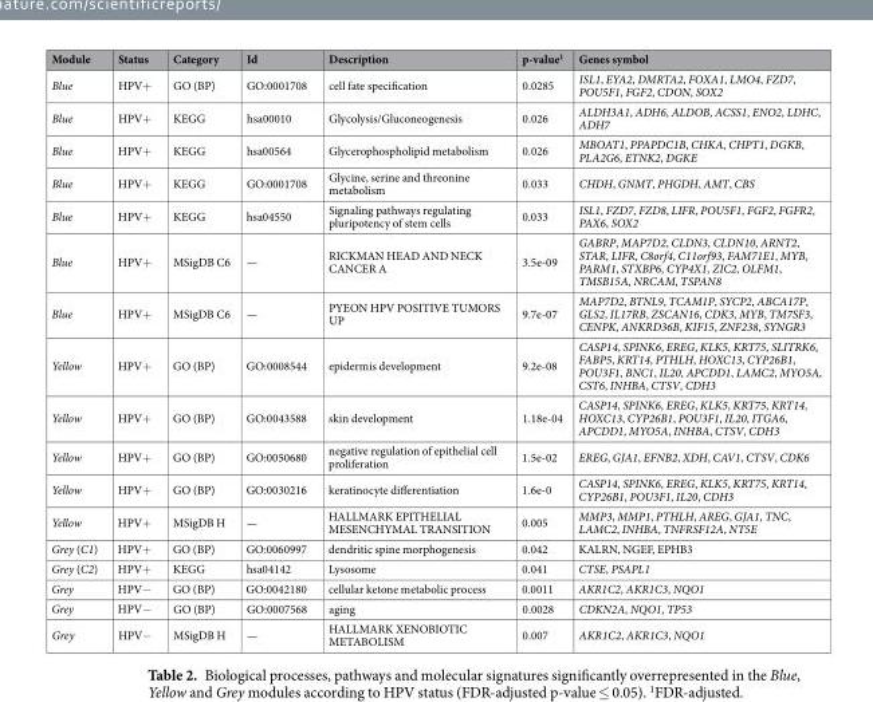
<table><thead><tr><td>Module</td><td>Status</td><td>Category</td><td>Id</td><td>Description</td><td>p-value<sup>1</sup></td><td>Genes symbol</td></tr></thead><tbody><tr><td>Blue</td><td>HPV+</td><td>GO (BP)</td><td>GO:0001708</td><td>cell fate specification</td><td>0.0285</td><td>ISL1, EYA2, DMRTA2, FOXA1, LMO4, FZD7, POU5F1, FGF2, CDON, SOX2</td></tr><tr><td>Blue</td><td>HPV+</td><td>KEGG</td><td>hsa00010</td><td>Glycolysis/Gluconeogenesis</td><td>0.026</td><td>ALDH3A1, ADH6, ALDOB, ACSS1, ENO2, LDHC, ADH7</td></tr><tr><td>Blue</td><td>HPV+</td><td>KEGG</td><td>hsa00564</td><td>Glycerophospholipid metabolism</td><td>0.026</td><td>MBOAT1, PPAPDC1B, CHKA, CHPT1, DGKB, PLA2G6, ETNK2, DGKE</td></tr><tr><td>Blue</td><td>HPV+</td><td>KEGG</td><td>GO:0001708</td><td>Glycine, serine and threonine metabolism</td><td>0.033</td><td>CHDH, GNMT, PHGDH, AMT, CBS</td></tr><tr><td>Blue</td><td>HPV+</td><td>KEGG</td><td>hsa04550</td><td>Signaling pathways regulating pluripotency of stem cells</td><td>0.033</td><td>ISL1, FZD7, FZD8, LIFR, POU5F1, FGF2, FGFR2, PAX6, SOX2</td></tr><tr><td>Blue</td><td>HPV+</td><td>MSigDB C6</td><td>—</td><td>RICKMAN HEAD AND NECK CANCER A</td><td>3.5e-09</td><td>GABRP, MAP7D2, CLDN3, CLDN10, ARNT2, STAR, LIFR, C8orf4, C11orf93, FAM71E1, MYB, PARM1, STXBP6, CYP4X1, ZIC2, OLFM1, TMSB15A, NRCAM, TSPAN8</td></tr><tr><td>Blue</td><td>HPV+</td><td>MSigDB C6</td><td>—</td><td>PYEON HPV POSITIVE TUMORS UP</td><td>9.7e-07</td><td>MAP7D2, BTNL9, TCAM1P, SYCP2, ABCA17P, GLS2, IL17RB, ZSCAN16, CDK3, MYB, TM7SF3, CENPK, ANKRD36B, KIF15, ZNF238, SYNGR3</td></tr><tr><td>Yellow</td><td>HPV+</td><td>GO (BP)</td><td>GO:0008544</td><td>epidermis development</td><td>9.2e-08</td><td>CASP14, SPINK6, EREG, KLK5, KRT75, SLITRK6, FABP5, KRT14, PTHLH, HOXC13, CYP26B1, POU3F1, BNC1, IL20, APCDD1, LAMC2, MYO5A, CST6, INHBA, CTSV, CDH3</td></tr><tr><td>Yellow</td><td>HPV+</td><td>GO (BP)</td><td>GO:0043588</td><td>skin development</td><td>1.18e-04</td><td>CASP14, SPINK6, EREG, KLK5, KRT75, KRT14, HOXC13, CYP26B1, POU3F1, IL20, ITGA6, APCDD1, MYO5A, INHBA, CTSV, CDH3</td></tr><tr><td>Yellow</td><td>HPV+</td><td>GO (BP)</td><td>GO:0050680</td><td>negative regulation of epithelial cell proliferation</td><td>1.5e-02</td><td>EREG, GJA1, EFNB2, XDH, CAV1, CTSV, CDK6</td></tr><tr><td>Yellow</td><td>HPV+</td><td>GO (BP)</td><td>GO:0030216</td><td>keratinocyte differentiation</td><td>1.6e-0</td><td>CASP14, SPINK6, EREG, KLK5, KRT75, KRT14, CYP26B1, POU3F1, IL20, CDH3</td></tr><tr><td>Yellow</td><td>HPV+</td><td>MSigDB H</td><td>—</td><td>HALLMARK EPITHELIAL MESENCHYMAL TRANSITION</td><td>0.005</td><td>MMP3, MMP1, PTHLH, AREG, GJA1, TNC, LAMC2, INHBA, TNFRSF12A, NT5E</td></tr><tr><td>Grey (C1)</td><td>HPV+</td><td>GO (BP)</td><td>GO:0060997</td><td>dendritic spine morphogenesis</td><td>0.042</td><td>KALRN, NGEF, EPHB3</td></tr><tr><td>Grey (C2)</td><td>HPV+</td><td>KEGG</td><td>hsa04142</td><td>Lysosome</td><td>0.041</td><td>CTSE, PSAPL1</td></tr><tr><td>Grey</td><td>HPV−</td><td>GO (BP)</td><td>GO:0042180</td><td>cellular ketone metabolic process</td><td>0.0011</td><td>AKR1C2, AKR1C3, NQO1</td></tr><tr><td>Grey</td><td>HPV−</td><td>GO (BP)</td><td>GO:0007568</td><td>aging</td><td>0.0028</td><td>CDKN2A, NQO1, TP53</td></tr><tr><td>Grey</td><td>HPV−</td><td>MSigDB H</td><td>—</td><td>HALLMARK XENOBIOTIC METABOLISM</td><td>0.007</td><td>AKR1C2, AKR1C3, NQO1</td></tr></tbody></table>